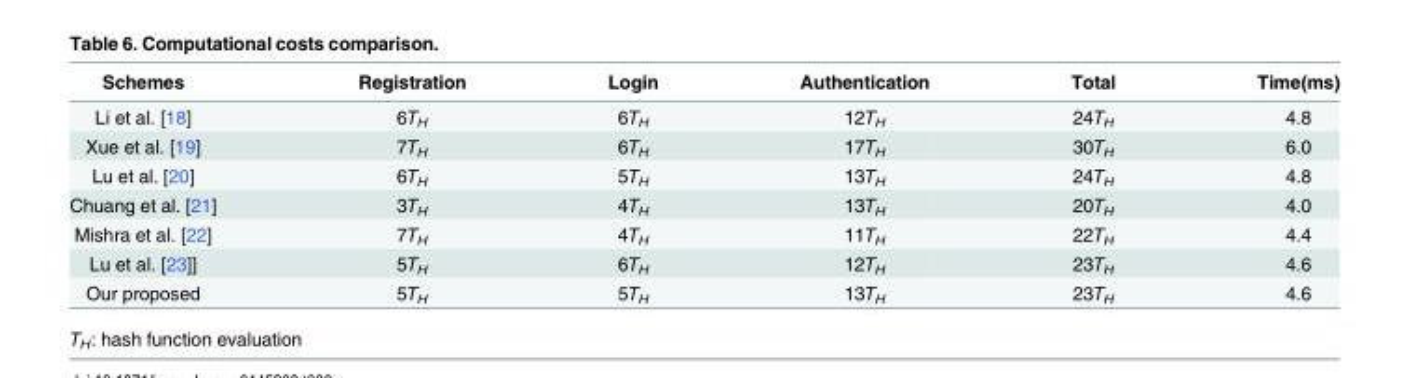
<table><thead><tr><td>Schemes</td><td>Registration</td><td>Login</td><td>Authentication</td><td>Total</td><td>Time(ms)</td></tr></thead><tbody><tr><td>Li et al. [18]</td><td>6T<sub>H</sub></td><td>6T<sub>H</sub></td><td>12T<sub>H</sub></td><td>24T<sub>H</sub></td><td>4.8</td></tr><tr><td>Xue et al. [19]</td><td>7T<sub>H</sub></td><td>6T<sub>H</sub></td><td>17T<sub>H</sub></td><td>30T<sub>H</sub></td><td>6.0</td></tr><tr><td>Lu et al. [20]</td><td>6T<sub>H</sub></td><td>5T<sub>H</sub></td><td>13T<sub>H</sub></td><td>24T<sub>H</sub></td><td>4.8</td></tr><tr><td>Chuang et al. [21]</td><td>3T<sub>H</sub></td><td>4T<sub>H</sub></td><td>13T<sub>H</sub></td><td>20T<sub>H</sub></td><td>4.0</td></tr><tr><td>Mishra et al. [22]</td><td>7T<sub>H</sub></td><td>4T<sub>H</sub></td><td>11T<sub>H</sub></td><td>22T<sub>H</sub></td><td>4.4</td></tr><tr><td>Lu et al. [23]]</td><td>5T<sub>H</sub></td><td>6T<sub>H</sub></td><td>12T<sub>H</sub></td><td>23T<sub>H</sub></td><td>4.6</td></tr><tr><td>Our proposed</td><td>5T<sub>H</sub></td><td>5T<sub>H</sub></td><td>13T<sub>H</sub></td><td>23T<sub>H</sub></td><td>4.6</td></tr></tbody></table>